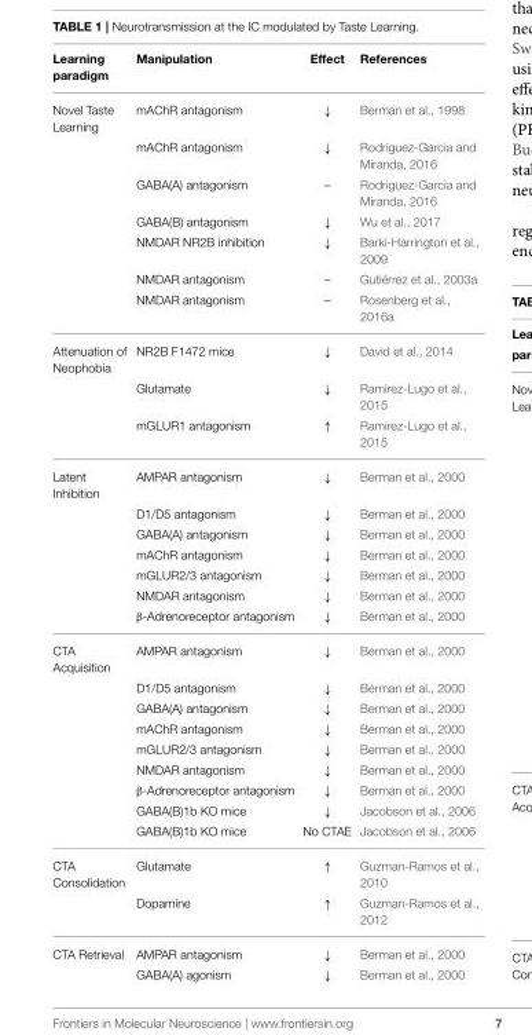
<table><thead><tr><td>Learning paradigm</td><td>Manipulation</td><td>Effect</td><td>References</td></tr></thead><tbody><tr><td rowspan="7">Novel Taste Learning</td><td>mAChR antagonism</td><td>↓</td><td>Berman et al., 1998</td></tr><tr><td>mAChR antagonism</td><td>↓</td><td>Rodriguez-Garcia and Miranda, 2016</td></tr><tr><td>GABA(A) antagonism</td><td>–</td><td>Rodriguez-Garcia and Miranda, 2016</td></tr><tr><td>GABA(B) antagonism</td><td>↓</td><td>Wu et al., 2017</td></tr><tr><td>NMDAR NR2B inhibition</td><td>↓</td><td>Barki-Harrington et al., 2009</td></tr><tr><td>NMDAR antagonism</td><td>–</td><td>Gutiérrez et al., 2003a</td></tr><tr><td>NMDAR antagonism</td><td>–</td><td>Rosenberg et al., 2016a</td></tr><tr><td rowspan="3">Attenuation of Neophobia</td><td>NR2B F1472 mice</td><td>↓</td><td>David et al., 2014</td></tr><tr><td>Glutamate</td><td>↓</td><td>Ramirez-Lugo et al., 2015</td></tr><tr><td>mGLUR1 antagonism</td><td>↑</td><td>Ramirez-Lugo et al., 2015</td></tr><tr><td rowspan="7">Latent Inhibition</td><td>AMPAR antagonism</td><td>↓</td><td>Berman et al., 2000</td></tr><tr><td>D1/D5 antagonism</td><td>↓</td><td>Berman et al., 2000</td></tr><tr><td>GABA(A) antagonism</td><td>↓</td><td>Berman et al., 2000</td></tr><tr><td>mAChR antagonism</td><td>↓</td><td>Berman et al., 2000</td></tr><tr><td>mGLUR2/3 antagonism</td><td>↓</td><td>Berman et al., 2000</td></tr><tr><td>NMDAR antagonism</td><td>↓</td><td>Berman et al., 2000</td></tr><tr><td>β-Adrenoreceptor antagonism</td><td>↓</td><td>Berman et al., 2000</td></tr><tr><td rowspan="9">CTA Acquisition</td><td>AMPAR antagonism</td><td>↓</td><td>Berman et al., 2000</td></tr><tr><td>D1/D5 antagonism</td><td>↓</td><td>Berman et al., 2000</td></tr><tr><td>GABA(A) antagonism</td><td>↓</td><td>Berman et al., 2000</td></tr><tr><td>mAChR antagonism</td><td>↓</td><td>Berman et al., 2000</td></tr><tr><td>mGLUR2/3 antagonism</td><td>↓</td><td>Berman et al., 2000</td></tr><tr><td>NMDAR antagonism</td><td>↓</td><td>Berman et al., 2000</td></tr><tr><td>β-Adrenoreceptor antagonism</td><td>↓</td><td>Berman et al., 2000</td></tr><tr><td>GABA(B)1b KO mice</td><td>↓</td><td>Jacobson et al., 2006</td></tr><tr><td>GABA(B)1b KO mice</td><td>No CTAE</td><td>Jacobson et al., 2006</td></tr><tr><td rowspan="2">CTA Consolidation</td><td>Glutamate</td><td>↑</td><td>Guzman-Ramos et al., 2010</td></tr><tr><td>Dopamine</td><td>↑</td><td>Guzman-Ramos et al., 2012</td></tr><tr><td rowspan="2">CTA Retrieval</td><td>AMPAR antagonism</td><td>↓</td><td>Berman et al., 2000</td></tr><tr><td>GABA(A) agonism</td><td>↓</td><td>Berman et al., 2000</td></tr></tbody></table>